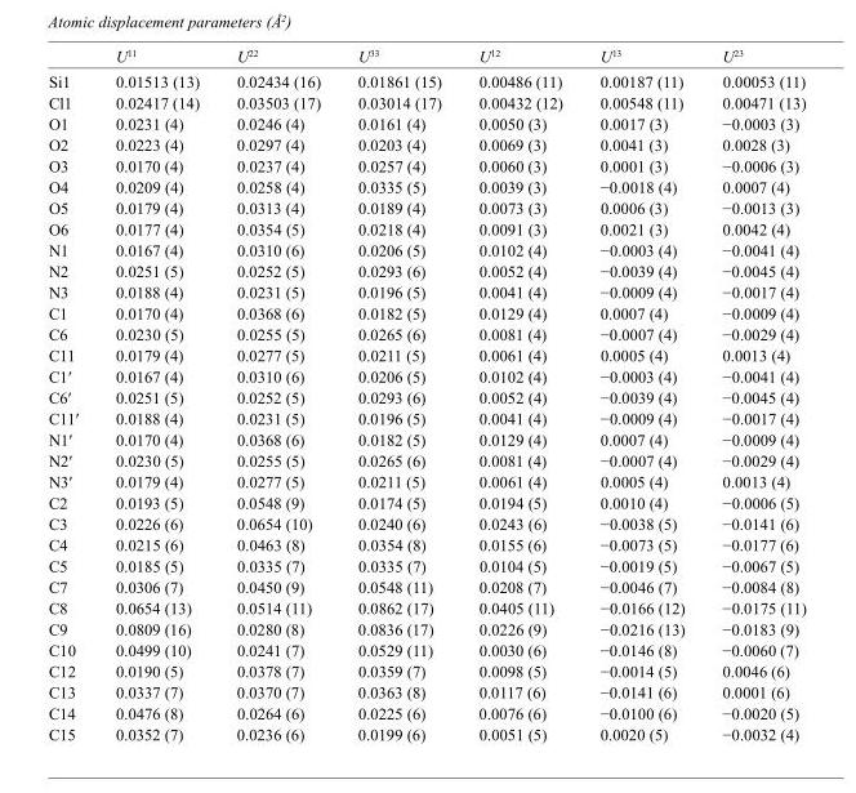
<table><thead><tr><td></td><td>U<sup>11</sup></td><td>U<sup>22</sup></td><td>U<sup>33</sup></td><td>U<sup>12</sup></td><td>U<sup>13</sup></td><td>U<sup>23</sup></td></tr></thead><tbody><tr><td>Si1</td><td>0.01513 (13)</td><td>0.02434 (16)</td><td>0.01861 (15)</td><td>0.00486 (11)</td><td>0.00187 (11)</td><td>0.00053 (11)</td></tr><tr><td>Cl1</td><td>0.02417 (14)</td><td>0.03503 (17)</td><td>0.03014 (17)</td><td>0.00432 (12)</td><td>0.00548 (11)</td><td>0.00471 (13)</td></tr><tr><td>O1</td><td>0.0231 (4)</td><td>0.0246 (4)</td><td>0.0161 (4)</td><td>0.0050 (3)</td><td>0.0017 (3)</td><td>−0.0003 (3)</td></tr><tr><td>O2</td><td>0.0223 (4)</td><td>0.0297 (4)</td><td>0.0203 (4)</td><td>0.0069 (3)</td><td>0.0041 (3)</td><td>0.0028 (3)</td></tr><tr><td>O3</td><td>0.0170 (4)</td><td>0.0237 (4)</td><td>0.0257 (4)</td><td>0.0060 (3)</td><td>0.0001 (3)</td><td>−0.0006 (3)</td></tr><tr><td>O4</td><td>0.0209 (4)</td><td>0.0258 (4)</td><td>0.0335 (5)</td><td>0.0039 (3)</td><td>−0.0018 (4)</td><td>0.0007 (4)</td></tr><tr><td>O5</td><td>0.0179 (4)</td><td>0.0313 (4)</td><td>0.0189 (4)</td><td>0.0073 (3)</td><td>0.0006 (3)</td><td>−0.0013 (3)</td></tr><tr><td>O6</td><td>0.0177 (4)</td><td>0.0354 (5)</td><td>0.0218 (4)</td><td>0.0091 (3)</td><td>0.0021 (3)</td><td>0.0042 (4)</td></tr><tr><td>N1</td><td>0.0167 (4)</td><td>0.0310 (6)</td><td>0.0206 (5)</td><td>0.0102 (4)</td><td>−0.0003 (4)</td><td>−0.0041 (4)</td></tr><tr><td>N2</td><td>0.0251 (5)</td><td>0.0252 (5)</td><td>0.0293 (6)</td><td>0.0052 (4)</td><td>−0.0039 (4)</td><td>−0.0045 (4)</td></tr><tr><td>N3</td><td>0.0188 (4)</td><td>0.0231 (5)</td><td>0.0196 (5)</td><td>0.0041 (4)</td><td>−0.0009 (4)</td><td>−0.0017 (4)</td></tr><tr><td>C1</td><td>0.0170 (4)</td><td>0.0368 (6)</td><td>0.0182 (5)</td><td>0.0129 (4)</td><td>0.0007 (4)</td><td>−0.0009 (4)</td></tr><tr><td>C6</td><td>0.0230 (5)</td><td>0.0255 (5)</td><td>0.0265 (6)</td><td>0.0081 (4)</td><td>−0.0007 (4)</td><td>−0.0029 (4)</td></tr><tr><td>C11</td><td>0.0179 (4)</td><td>0.0277 (5)</td><td>0.0211 (5)</td><td>0.0061 (4)</td><td>0.0005 (4)</td><td>0.0013 (4)</td></tr><tr><td>C1′</td><td>0.0167 (4)</td><td>0.0310 (6)</td><td>0.0206 (5)</td><td>0.0102 (4)</td><td>−0.0003 (4)</td><td>−0.0041 (4)</td></tr><tr><td>C6′</td><td>0.0251 (5)</td><td>0.0252 (5)</td><td>0.0293 (6)</td><td>0.0052 (4)</td><td>−0.0039 (4)</td><td>−0.0045 (4)</td></tr><tr><td>C11′</td><td>0.0188 (4)</td><td>0.0231 (5)</td><td>0.0196 (5)</td><td>0.0041 (4)</td><td>−0.0009 (4)</td><td>−0.0017 (4)</td></tr><tr><td>N1′</td><td>0.0170 (4)</td><td>0.0368 (6)</td><td>0.0182 (5)</td><td>0.0129 (4)</td><td>0.0007 (4)</td><td>−0.0009 (4)</td></tr><tr><td>N2′</td><td>0.0230 (5)</td><td>0.0255 (5)</td><td>0.0265 (6)</td><td>0.0081 (4)</td><td>−0.0007 (4)</td><td>−0.0029 (4)</td></tr><tr><td>N3′</td><td>0.0179 (4)</td><td>0.0277 (5)</td><td>0.0211 (5)</td><td>0.0061 (4)</td><td>0.0005 (4)</td><td>0.0013 (4)</td></tr><tr><td>C2</td><td>0.0193 (5)</td><td>0.0548 (9)</td><td>0.0174 (5)</td><td>0.0194 (5)</td><td>0.0010 (4)</td><td>−0.0006 (5)</td></tr><tr><td>C3</td><td>0.0226 (6)</td><td>0.0654 (10)</td><td>0.0240 (6)</td><td>0.0243 (6)</td><td>−0.0038 (5)</td><td>−0.0141 (6)</td></tr><tr><td>C4</td><td>0.0215 (6)</td><td>0.0463 (8)</td><td>0.0354 (8)</td><td>0.0155 (6)</td><td>−0.0073 (5)</td><td>−0.0177 (6)</td></tr><tr><td>C5</td><td>0.0185 (5)</td><td>0.0335 (7)</td><td>0.0335 (7)</td><td>0.0104 (5)</td><td>−0.0019 (5)</td><td>−0.0067 (5)</td></tr><tr><td>C7</td><td>0.0306 (7)</td><td>0.0450 (9)</td><td>0.0548 (11)</td><td>0.0208 (7)</td><td>−0.0046 (7)</td><td>−0.0084 (8)</td></tr><tr><td>C8</td><td>0.0654 (13)</td><td>0.0514 (11)</td><td>0.0862 (17)</td><td>0.0405 (11)</td><td>−0.0166 (12)</td><td>−0.0175 (11)</td></tr><tr><td>C9</td><td>0.0809 (16)</td><td>0.0280 (8)</td><td>0.0836 (17)</td><td>0.0226 (9)</td><td>−0.0216 (13)</td><td>−0.0183 (9)</td></tr><tr><td>C10</td><td>0.0499 (10)</td><td>0.0241 (7)</td><td>0.0529 (11)</td><td>0.0030 (6)</td><td>−0.0146 (8)</td><td>−0.0060 (7)</td></tr><tr><td>C12</td><td>0.0190 (5)</td><td>0.0378 (7)</td><td>0.0359 (7)</td><td>0.0098 (5)</td><td>−0.0014 (5)</td><td>0.0046 (6)</td></tr><tr><td>C13</td><td>0.0337 (7)</td><td>0.0370 (7)</td><td>0.0363 (8)</td><td>0.0117 (6)</td><td>−0.0141 (6)</td><td>0.0001 (6)</td></tr><tr><td>C14</td><td>0.0476 (8)</td><td>0.0264 (6)</td><td>0.0225 (6)</td><td>0.0076 (6)</td><td>−0.0100 (6)</td><td>−0.0020 (5)</td></tr><tr><td>C15</td><td>0.0352 (7)</td><td>0.0236 (6)</td><td>0.0199 (6)</td><td>0.0051 (5)</td><td>0.0020 (5)</td><td>−0.0032 (4)</td></tr></tbody></table>